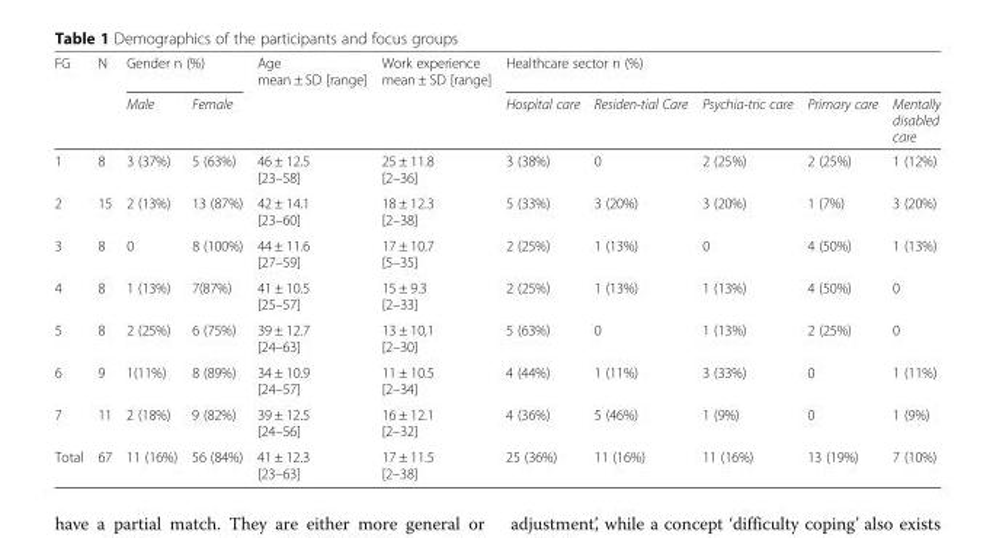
<table><thead><tr><td rowspan="2">FG</td><td rowspan="2">N</td><td colspan="2">Gender n (%)</td><td rowspan="2">Age mean ± SD [range]</td><td rowspan="2">Work experience mean ± SD [range]</td><td colspan="5">Healthcare sector n (%)</td></tr><tr><td>Male</td><td>Female</td><td>Hospital care</td><td>Residen-tial Care</td><td>Psychia-tric care</td><td>Primary care</td><td>Mentally disabled care</td></tr></thead><tbody><tr><td>1</td><td>8</td><td>3 (37%)</td><td>5 (63%)</td><td>46 ± 12.5 [23–58]</td><td>25 ± 11.8 [2–36]</td><td>3 (38%)</td><td>0</td><td>2 (25%)</td><td>2 (25%)</td><td>1 (12%)</td></tr><tr><td>2</td><td>15</td><td>2 (13%)</td><td>13 (87%)</td><td>42 ± 14.1 [23–60]</td><td>18 ± 12.3 [2–38]</td><td>5 (33%)</td><td>3 (20%)</td><td>3 (20%)</td><td>1 (7%)</td><td>3 (20%)</td></tr><tr><td>3</td><td>8</td><td>0</td><td>8 (100%)</td><td>44 ± 11.6 [27–59]</td><td>17 ± 10.7 [5–35]</td><td>2 (25%)</td><td>1 (13%)</td><td>0</td><td>4 (50%)</td><td>1 (13%)</td></tr><tr><td>4</td><td>8</td><td>1 (13%)</td><td>7(87%)</td><td>41 ± 10.5 [25–57]</td><td>15 ± 9.3 [2–33]</td><td>2 (25%)</td><td>1 (13%)</td><td>1 (13%)</td><td>4 (50%)</td><td>0</td></tr><tr><td>5</td><td>8</td><td>2 (25%)</td><td>6 (75%)</td><td>39 ± 12.7 [24–63]</td><td>13 ± 10,1 [2–30]</td><td>5 (63%)</td><td>0</td><td>1 (13%)</td><td>2 (25%)</td><td>0</td></tr><tr><td>6</td><td>9</td><td>1(11%)</td><td>8 (89%)</td><td>34 ± 10.9 [24–57]</td><td>11 ± 10.5 [2–34]</td><td>4 (44%)</td><td>1 (11%)</td><td>3 (33%)</td><td>0</td><td>1 (11%)</td></tr><tr><td>7</td><td>11</td><td>2 (18%)</td><td>9 (82%)</td><td>39 ± 12.5 [24–56]</td><td>16 ± 12.1 [2–32]</td><td>4 (36%)</td><td>5 (46%)</td><td>1 (9%)</td><td>0</td><td>1 (9%)</td></tr><tr><td>Total</td><td>67</td><td>11 (16%)</td><td>56 (84%)</td><td>41 ± 12.3 [23–63]</td><td>17 ± 11.5 [2–38]</td><td>25 (36%)</td><td>11 (16%)</td><td>11 (16%)</td><td>13 (19%)</td><td>7 (10%)</td></tr></tbody></table>